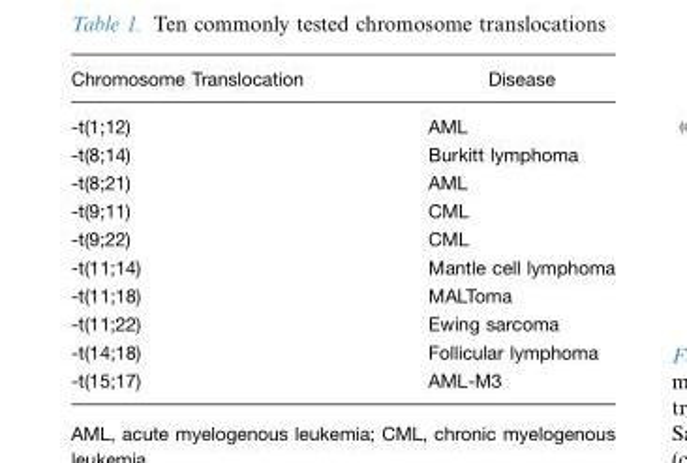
<table><thead><tr><td>Chromosome Translocation</td><td>Disease</td></tr></thead><tbody><tr><td>-t(1;12)</td><td>AML</td></tr><tr><td>-t(8;14)</td><td>Burkitt lymphoma</td></tr><tr><td>-t(8;21)</td><td>AML</td></tr><tr><td>-t(9;11)</td><td>CML</td></tr><tr><td>-t(9;22)</td><td>CML</td></tr><tr><td>-t(11;14)</td><td>Mantle cell lymphoma</td></tr><tr><td>-t(11;18)</td><td>MALToma</td></tr><tr><td>-t(11;22)</td><td>Ewing sarcoma</td></tr><tr><td>-t(14;18)</td><td>Follicular lymphoma</td></tr><tr><td>-t(15;17)</td><td>AML-M3</td></tr></tbody></table>